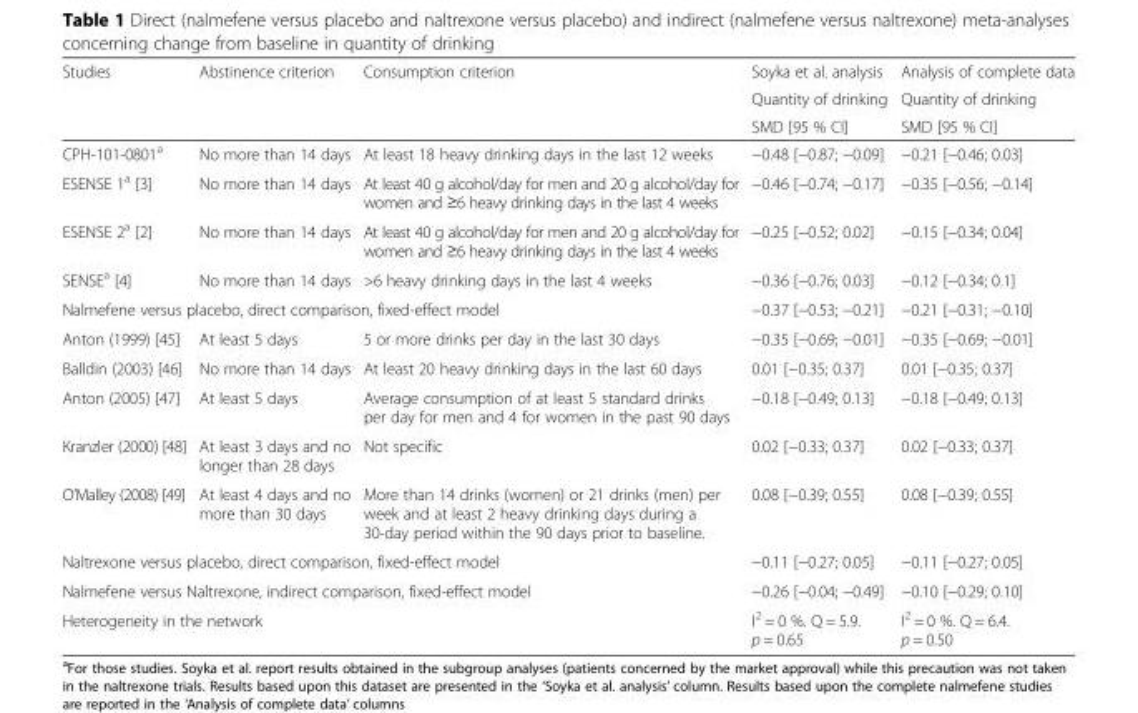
<table><thead><tr><td rowspan="3">Studies</td><td rowspan="3">Abstinence criterion</td><td rowspan="3">Consumption criterion</td><td rowspan="3">Soyka et al. analysis Quantity of drinking SMD [95 % CI]</td><td rowspan="3">Analysis of complete data Quantity of drinking SMD [95 % CI]</td></tr><tr></tr><tr></tr></thead><tbody><tr><td>CPH-101-0801<sup>a</sup></td><td>No more than 14 days</td><td>At least 18 heavy drinking days in the last 12 weeks</td><td>−0.48 [−0.87; −0.09]</td><td>−0.21 [−0.46; 0.03]</td></tr><tr><td>ESENSE 1<sup>a</sup> [3]</td><td>No more than 14 days</td><td>At least 40 g alcohol/day for men and 20 g alcohol/day for women and ≥6 heavy drinking days in the last 4 weeks</td><td>−0.46 [−0.74; −0.17]</td><td>−0.35 [−0.56; −0.14]</td></tr><tr><td>ESENSE 2<sup>a</sup> [2]</td><td>No more than 14 days</td><td>At least 40 g alcohol/day for men and 20 g alcohol/day for women and ≥6 heavy drinking days in the last 4 weeks</td><td>−0.25 [−0.52; 0.02]</td><td>−0.15 [−0.34; 0.04]</td></tr><tr><td>SENSE<sup>a</sup> [4]</td><td>No more than 14 days</td><td>&gt;6 heavy drinking days in the last 4 weeks</td><td>−0.36 [−0.76; 0.03]</td><td>−0.12 [−0.34; 0.1]</td></tr><tr><td colspan="3">Nalmefene versus placebo, direct comparison, fixed-effect model</td><td>−0.37 [−0.53; −0.21]</td><td>−0.21 [−0.31; −0.10]</td></tr><tr><td>Anton (1999) [45]</td><td>At least 5 days</td><td>5 or more drinks per day in the last 30 days</td><td>−0.35 [−0.69; −0.01]</td><td>−0.35 [−0.69; −0.01]</td></tr><tr><td>Balldin (2003) [46]</td><td>No more than 14 days</td><td>At least 20 heavy drinking days in the last 60 days</td><td>0.01 [−0.35; 0.37]</td><td>0.01 [−0.35; 0.37]</td></tr><tr><td>Anton (2005) [47]</td><td>At least 5 days</td><td>Average consumption of at least 5 standard drinks per day for men and 4 for women in the past 90 days</td><td>−0.18 [−0.49; 0.13]</td><td>−0.18 [−0.49; 0.13]</td></tr><tr><td>Kranzler (2000) [48]</td><td>At least 3 days and no longer than 28 days</td><td>Not specific</td><td>0.02 [−0.33; 0.37]</td><td>0.02 [−0.33; 0.37]</td></tr><tr><td>O’Malley (2008) [49]</td><td>At least 4 days and no more than 30 days</td><td>More than 14 drinks (women) or 21 drinks (men) per week and at least 2 heavy drinking days during a 30-day period within the 90 days prior to baseline.</td><td>0.08 [−0.39; 0.55]</td><td>0.08 [−0.39; 0.55]</td></tr><tr><td colspan="3">Naltrexone versus placebo, direct comparison, fixed-effect model</td><td>−0.11 [−0.27; 0.05]</td><td>−0.11 [−0.27; 0.05]</td></tr><tr><td colspan="3">Nalmefene versus Naltrexone, indirect comparison, fixed-effect model</td><td>−0.26 [−0.04; −0.49]</td><td>−0.10 [−0.29; 0.10]</td></tr><tr><td colspan="3">Heterogeneity in the network</td><td>I<sup>2</sup> = 0 %. Q = 5.9. p = 0.65</td><td>I<sup>2</sup> = 0 %. Q = 6.4. p = 0.50</td></tr></tbody></table>